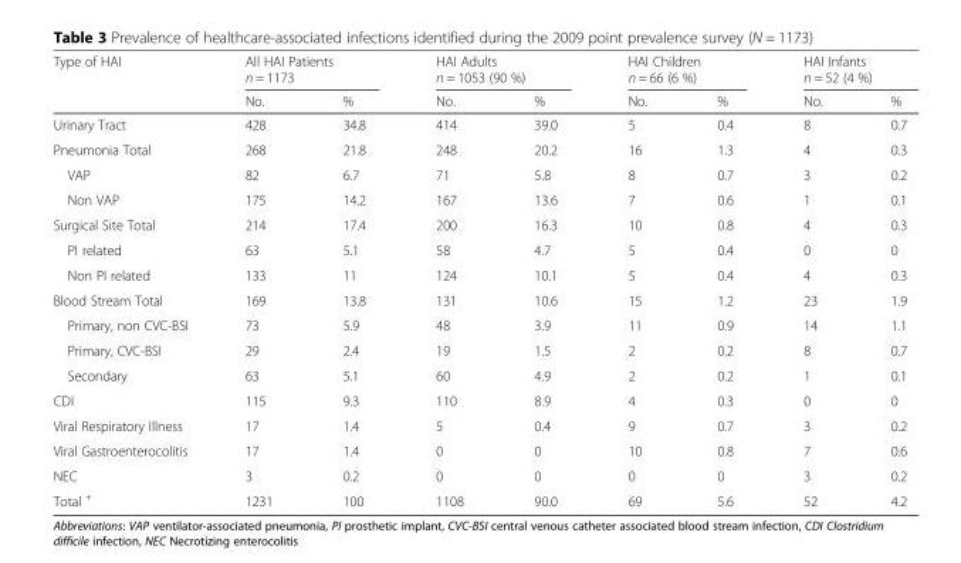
<table><thead><tr><td rowspan="2">Type of HAI</td><td colspan="2">All HAI Patients n = 1173</td><td colspan="2">HAI Adults n = 1053 (90 %)</td><td colspan="2">HAI Children n = 66 (6 %)</td><td colspan="2">HAI Infants n = 52 (4 %)</td></tr><tr><td>No.</td><td>%</td><td>No.</td><td>%</td><td>No.</td><td>%</td><td>No.</td><td>%</td></tr></thead><tbody><tr><td>Urinary Tract</td><td>428</td><td>34.8</td><td>414</td><td>39.0</td><td>5</td><td>0.4</td><td>8</td><td>0.7</td></tr><tr><td>Pneumonia Total</td><td>268</td><td>21.8</td><td>248</td><td>20.2</td><td>16</td><td>1.3</td><td>4</td><td>0.3</td></tr><tr><td>VAP</td><td>82</td><td>6.7</td><td>71</td><td>5.8</td><td>8</td><td>0.7</td><td>3</td><td>0.2</td></tr><tr><td>Non VAP</td><td>175</td><td>14.2</td><td>167</td><td>13.6</td><td>7</td><td>0.6</td><td>1</td><td>0.1</td></tr><tr><td>Surgical Site Total</td><td>214</td><td>17.4</td><td>200</td><td>16.3</td><td>10</td><td>0.8</td><td>4</td><td>0.3</td></tr><tr><td>PI related</td><td>63</td><td>5.1</td><td>58</td><td>4.7</td><td>5</td><td>0.4</td><td>0</td><td>0</td></tr><tr><td>Non PI related</td><td>133</td><td>11</td><td>124</td><td>10.1</td><td>5</td><td>0.4</td><td>4</td><td>0.3</td></tr><tr><td>Blood Stream Total</td><td>169</td><td>13.8</td><td>131</td><td>10.6</td><td>15</td><td>1.2</td><td>23</td><td>1.9</td></tr><tr><td>Primary, non CVC-BSI</td><td>73</td><td>5.9</td><td>48</td><td>3.9</td><td>11</td><td>0.9</td><td>14</td><td>1.1</td></tr><tr><td>Primary, CVC-BSI</td><td>29</td><td>2.4</td><td>19</td><td>1.5</td><td>2</td><td>0.2</td><td>8</td><td>0.7</td></tr><tr><td>Secondary</td><td>63</td><td>5.1</td><td>60</td><td>4.9</td><td>2</td><td>0.2</td><td>1</td><td>0.1</td></tr><tr><td>CDI</td><td>115</td><td>9.3</td><td>110</td><td>8.9</td><td>4</td><td>0.3</td><td>0</td><td>0</td></tr><tr><td>Viral Respiratory Illness</td><td>17</td><td>1.4</td><td>5</td><td>0.4</td><td>9</td><td>0.7</td><td>3</td><td>0.2</td></tr><tr><td>Viral Gastroenterocolitis</td><td>17</td><td>1.4</td><td>0</td><td>0</td><td>10</td><td>0.8</td><td>7</td><td>0.6</td></tr><tr><td>NEC</td><td>3</td><td>0.2</td><td>0</td><td>0</td><td>0</td><td>0</td><td>3</td><td>0.2</td></tr><tr><td>Total <sup>+</sup></td><td>1231</td><td>100</td><td>1108</td><td>90.0</td><td>69</td><td>5.6</td><td>52</td><td>4.2</td></tr></tbody></table>